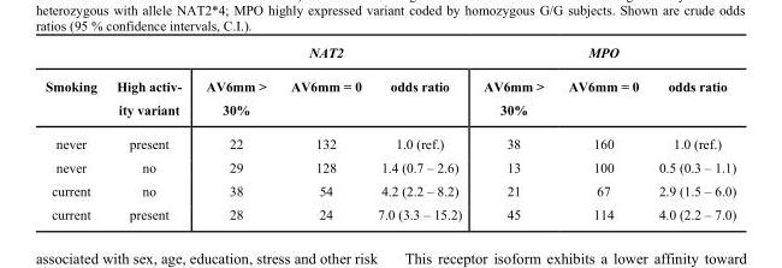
<table><thead><tr><td rowspan="2">Smoking</td><td rowspan="2">High activ- ity variant</td><td colspan="3">NAT2</td><td colspan="3">MPO</td></tr><tr><td>AV6mm &gt; 30%</td><td>AV6mm = 0</td><td>odds ratio</td><td>AV6mm &gt; 30%</td><td>AV6mm = 0</td><td>odds ratio</td></tr></thead><tbody><tr><td>never</td><td>present</td><td>22</td><td>132</td><td>1.0 (ref.)</td><td>38</td><td>160</td><td>1.0 (ref.)</td></tr><tr><td>never</td><td>no</td><td>29</td><td>128</td><td>1.4 (0.7 – 2.6)</td><td>13</td><td>100</td><td>0.5 (0.3 – 1.1)</td></tr><tr><td>current</td><td>no</td><td>38</td><td>54</td><td>4.2 (2.2 – 8.2)</td><td>21</td><td>67</td><td>2.9 (1.5 – 6.0)</td></tr><tr><td>current</td><td>present</td><td>28</td><td>24</td><td>7.0 (3.3 – 15.2)</td><td>45</td><td>114</td><td>4.0 (2.2 – 7.0)</td></tr></tbody></table>